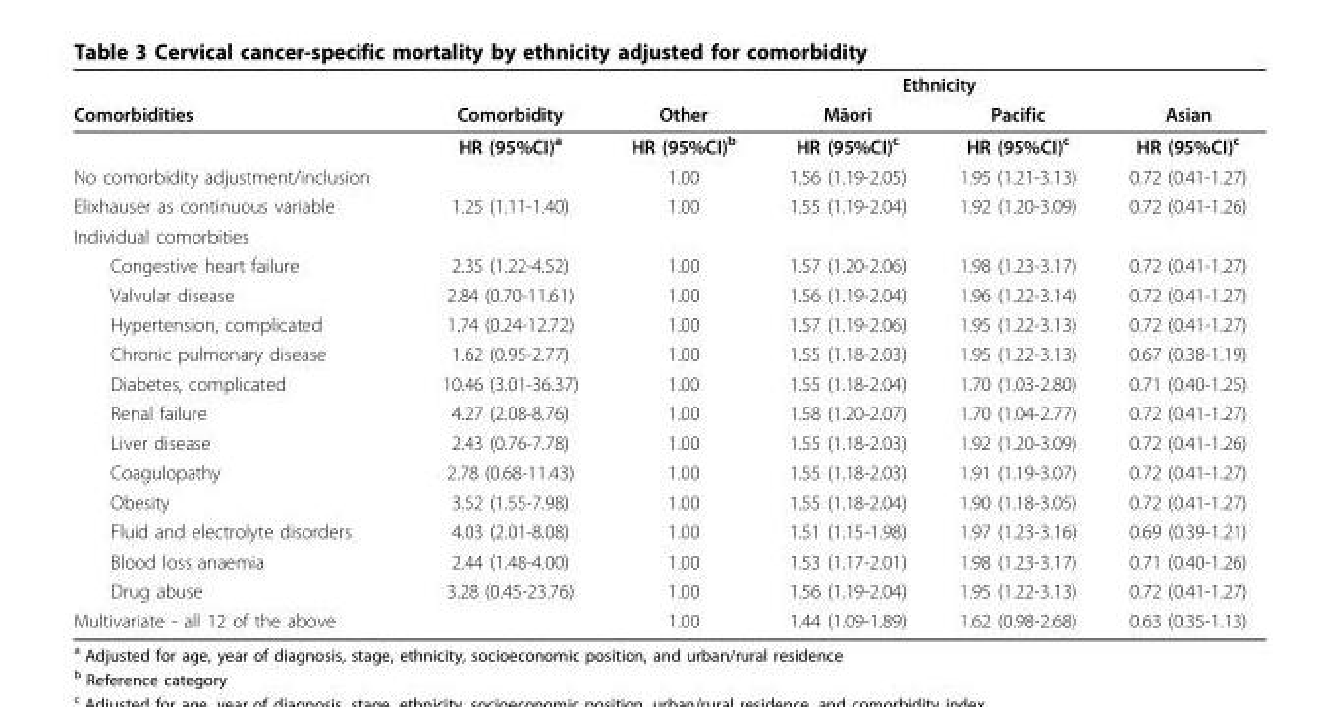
<table><thead><tr><td rowspan="2">Comorbidities</td><td rowspan="2">Comorbidity</td><td colspan="4">Ethnicity</td></tr><tr><td>Other</td><td>Māori</td><td>Pacific</td><td>Asian</td></tr></thead><tbody><tr><td></td><td>HR (95%CI)<sup>a</sup></td><td>HR (95%CI)<sup>b</sup></td><td>HR (95%CI)<sup>c</sup></td><td>HR (95%CI)<sup>c</sup></td><td>HR (95%CI)<sup>c</sup></td></tr><tr><td>No comorbidity adjustment/inclusion</td><td></td><td>1.00</td><td>1.56 (1.19-2.05)</td><td>1.95 (1.21-3.13)</td><td>0.72 (0.41-1.27)</td></tr><tr><td>Elixhauser as continuous variable</td><td>1.25 (1.11-1.40)</td><td>1.00</td><td>1.55 (1.19-2.04)</td><td>1.92 (1.20-3.09)</td><td>0.72 (0.41-1.26)</td></tr><tr><td colspan="6">Individual comorbities</td></tr><tr><td>Congestive heart failure</td><td>2.35 (1.22-4.52)</td><td>1.00</td><td>1.57 (1.20-2.06)</td><td>1.98 (1.23-3.17)</td><td>0.72 (0.41-1.27)</td></tr><tr><td>Valvular disease</td><td>2.84 (0.70-11.61)</td><td>1.00</td><td>1.56 (1.19-2.04)</td><td>1.96 (1.22-3.14)</td><td>0.72 (0.41-1.27)</td></tr><tr><td>Hypertension, complicated</td><td>1.74 (0.24-12.72)</td><td>1.00</td><td>1.57 (1.19-2.06)</td><td>1.95 (1.22-3.13)</td><td>0.72 (0.41-1.27)</td></tr><tr><td>Chronic pulmonary disease</td><td>1.62 (0.95-2.77)</td><td>1.00</td><td>1.55 (1.18-2.03)</td><td>1.95 (1.22-3.13)</td><td>0.67 (0.38-1.19)</td></tr><tr><td>Diabetes, complicated</td><td>10.46 (3.01-36.37)</td><td>1.00</td><td>1.55 (1.18-2.04)</td><td>1.70 (1.03-2.80)</td><td>0.71 (0.40-1.25)</td></tr><tr><td>Renal failure</td><td>4.27 (2.08-8.76)</td><td>1.00</td><td>1.58 (1.20-2.07)</td><td>1.70 (1.04-2.77)</td><td>0.72 (0.41-1.27)</td></tr><tr><td>Liver disease</td><td>2.43 (0.76-7.78)</td><td>1.00</td><td>1.55 (1.18-2.03)</td><td>1.92 (1.20-3.09)</td><td>0.72 (0.41-1.26)</td></tr><tr><td>Coagulopathy</td><td>2.78 (0.68-11.43)</td><td>1.00</td><td>1.55 (1.18-2.03)</td><td>1.91 (1.19-3.07)</td><td>0.72 (0.41-1.27)</td></tr><tr><td>Obesity</td><td>3.52 (1.55-7.98)</td><td>1.00</td><td>1.55 (1.18-2.04)</td><td>1.90 (1.18-3.05)</td><td>0.72 (0.41-1.27)</td></tr><tr><td>Fluid and electrolyte disorders</td><td>4.03 (2.01-8.08)</td><td>1.00</td><td>1.51 (1.15-1.98)</td><td>1.97 (1.23-3.16)</td><td>0.69 (0.39-1.21)</td></tr><tr><td>Blood loss anaemia</td><td>2.44 (1.48-4.00)</td><td>1.00</td><td>1.53 (1.17-2.01)</td><td>1.98 (1.23-3.17)</td><td>0.71 (0.40-1.26)</td></tr><tr><td>Drug abuse</td><td>3.28 (0.45-23.76)</td><td>1.00</td><td>1.56 (1.19-2.04)</td><td>1.95 (1.22-3.13)</td><td>0.72 (0.41-1.27)</td></tr><tr><td>Multivariate - all 12 of the above</td><td></td><td>1.00</td><td>1.44 (1.09-1.89)</td><td>1.62 (0.98-2.68)</td><td>0.63 (0.35-1.13)</td></tr></tbody></table>